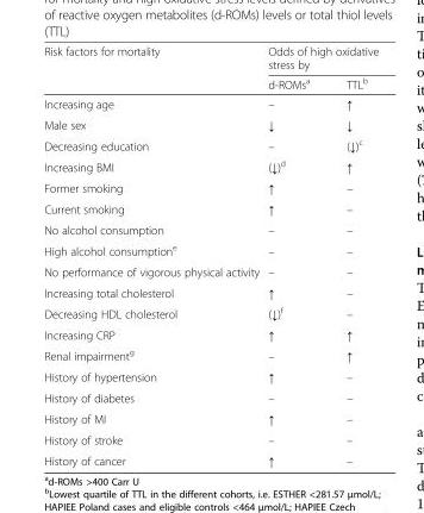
<table><thead><tr><td rowspan="2">Risk factors for mortality</td><td colspan="2">Odds of high oxidative stress by</td></tr><tr><td>d-ROMs<sup>a</sup></td><td>TTL<sup>b</sup></td></tr></thead><tbody><tr><td>Increasing age</td><td>–</td><td>↑</td></tr><tr><td>Male sex</td><td>↓</td><td>↓</td></tr><tr><td>Decreasing education</td><td>–</td><td>(↓)<sup>c</sup></td></tr><tr><td>Increasing BMI</td><td>(↓)<sup>d</sup></td><td>↑</td></tr><tr><td>Former smoking</td><td>↑</td><td>–</td></tr><tr><td>Current smoking</td><td>↑</td><td>–</td></tr><tr><td>No alcohol consumption</td><td>–</td><td>–</td></tr><tr><td>High alcohol consumption<sup>e</sup></td><td>–</td><td>–</td></tr><tr><td>No performance of vigorous physical activity</td><td>–</td><td>–</td></tr><tr><td>Increasing total cholesterol</td><td>↑</td><td>–</td></tr><tr><td>Decreasing HDL cholesterol</td><td>(↓)<sup>f</sup></td><td>–</td></tr><tr><td>Increasing CRP</td><td>↑</td><td>↑</td></tr><tr><td>Renal impairment<sup>g</sup></td><td>–</td><td>↑</td></tr><tr><td>History of hypertension</td><td>↑</td><td>–</td></tr><tr><td>History of diabetes</td><td>–</td><td>–</td></tr><tr><td>History of MI</td><td>↑</td><td>–</td></tr><tr><td>History of stroke</td><td>–</td><td>–</td></tr><tr><td>History of cancer</td><td>↑</td><td>–</td></tr></tbody></table>